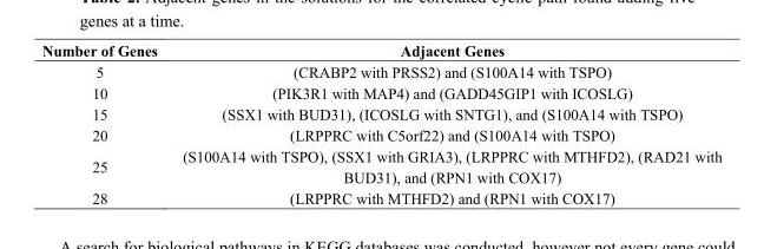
<table><thead><tr><td>Number of Genes</td><td>Adjacent Genes</td></tr></thead><tbody><tr><td>5</td><td>(CRABP2 with PRSS2) and (S100A14 with TSPO)</td></tr><tr><td>10</td><td>(PIK3R1 with MAP4) and (GADD45GIP1 with ICOSLG)</td></tr><tr><td>15</td><td>(SSX1 with BUD31), (ICOSLG with SNTG1), and (S100A14 with TSPO)</td></tr><tr><td>20</td><td>(LRPPRC with C5orf22) and (S100A14 with TSPO)</td></tr><tr><td>25</td><td>(S100A14 with TSPO), (SSX1 with GRIA3), (LRPPRC with MTHFD2), (RAD21 with BUD31), and (RPN1 with COX17)</td></tr><tr><td>28</td><td>(LRPPRC with MTHFD2) and (RPN1 with COX17)</td></tr></tbody></table>